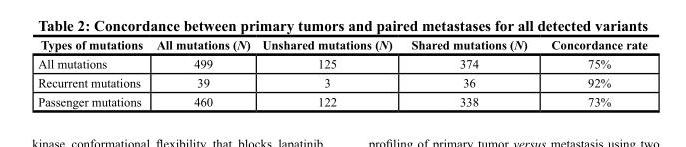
<table><thead><tr><td>Types of mutations</td><td>All mutations (N)</td><td>Unshared mutations (N)</td><td>Shared mutations (N)</td><td>Concordance rate</td></tr></thead><tbody><tr><td>All mutations</td><td>499</td><td>125</td><td>374</td><td>75%</td></tr><tr><td>Recurrent mutations</td><td>39</td><td>3</td><td>36</td><td>92%</td></tr><tr><td>Passenger mutations</td><td>460</td><td>122</td><td>338</td><td>73%</td></tr></tbody></table>